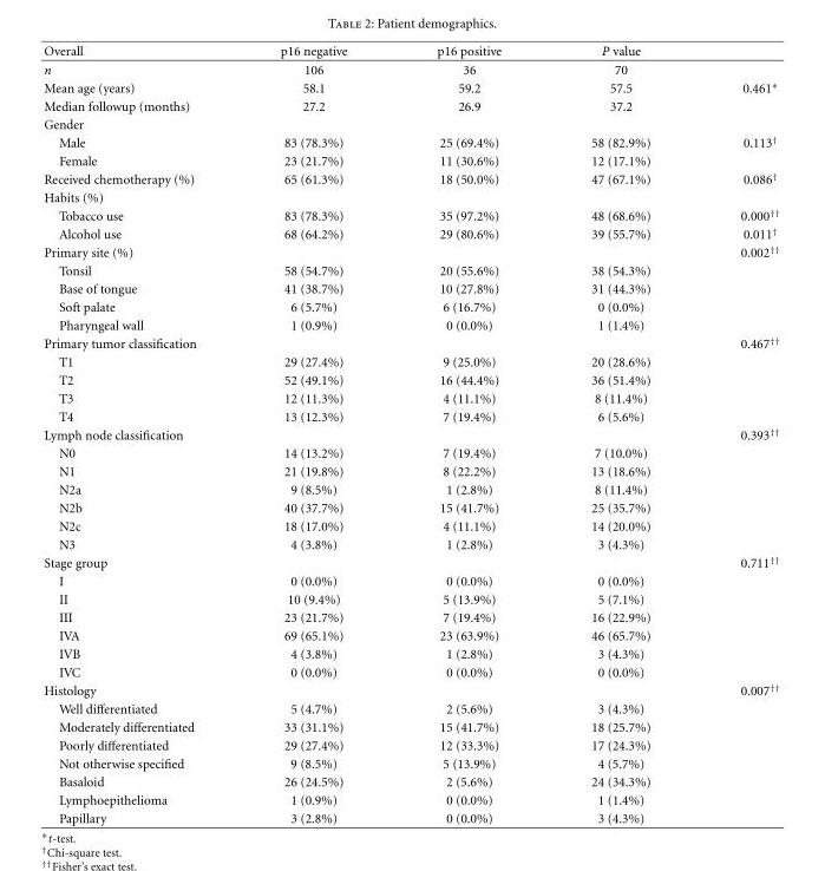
<table><thead><tr><td>Overall</td><td>p16 negative</td><td>p16 positive</td><td>P value</td><td></td></tr></thead><tbody><tr><td>n</td><td>106</td><td>36</td><td>70</td><td></td></tr><tr><td>Mean age (years)</td><td>58.1</td><td>59.2</td><td>57.5</td><td>0.461∗</td></tr><tr><td>Median followup (months)</td><td>27.2</td><td>26.9</td><td>37.2</td><td></td></tr><tr><td colspan="5">Gender</td></tr><tr><td>Male</td><td>83 (78.3%)</td><td>25 (69.4%)</td><td>58 (82.9%)</td><td>0.113<sup>†</sup></td></tr><tr><td>Female</td><td>23 (21.7%)</td><td>11 (30.6%)</td><td>12 (17.1%)</td><td></td></tr><tr><td>Received chemotherapy (%)</td><td>65 (61.3%)</td><td>18 (50.0%)</td><td>47 (67.1%)</td><td>0.086<sup>†</sup></td></tr><tr><td colspan="5">Habits (%)</td></tr><tr><td>Tobacco use</td><td>83 (78.3%)</td><td>35 (97.2%)</td><td>48 (68.6%)</td><td>0.000<sup>††</sup></td></tr><tr><td>Alcohol use</td><td>68 (64.2%)</td><td>29 (80.6%)</td><td>39 (55.7%)</td><td>0.011<sup>†</sup></td></tr><tr><td>Primary site (%)</td><td></td><td></td><td></td><td>0.002<sup>††</sup></td></tr><tr><td>Tonsil</td><td>58 (54.7%)</td><td>20 (55.6%)</td><td>38 (54.3%)</td><td></td></tr><tr><td>Base of tongue</td><td>41 (38.7%)</td><td>10 (27.8%)</td><td>31 (44.3%)</td><td></td></tr><tr><td>Soft palate</td><td>6 (5.7%)</td><td>6 (16.7%)</td><td>0 (0.0%)</td><td></td></tr><tr><td>Pharyngeal wall</td><td>1 (0.9%)</td><td>0 (0.0%)</td><td>1 (1.4%)</td><td></td></tr><tr><td>Primary tumor classification</td><td></td><td></td><td></td><td>0.467<sup>††</sup></td></tr><tr><td>T1</td><td>29 (27.4%)</td><td>9 (25.0%)</td><td>20 (28.6%)</td><td></td></tr><tr><td>T2</td><td>52 (49.1%)</td><td>16 (44.4%)</td><td>36 (51.4%)</td><td></td></tr><tr><td>T3</td><td>12 (11.3%)</td><td>4 (11.1%)</td><td>8 (11.4%)</td><td></td></tr><tr><td>T4</td><td>13 (12.3%)</td><td>7 (19.4%)</td><td>6 (5.6%)</td><td></td></tr><tr><td>Lymph node classification</td><td></td><td></td><td></td><td>0.393<sup>††</sup></td></tr><tr><td>N0</td><td>14 (13.2%)</td><td>7 (19.4%)</td><td>7 (10.0%)</td><td></td></tr><tr><td>N1</td><td>21 (19.8%)</td><td>8 (22.2%)</td><td>13 (18.6%)</td><td></td></tr><tr><td>N2a</td><td>9 (8.5%)</td><td>1 (2.8%)</td><td>8 (11.4%)</td><td></td></tr><tr><td>N2b</td><td>40 (37.7%)</td><td>15 (41.7%)</td><td>25 (35.7%)</td><td></td></tr><tr><td>N2c</td><td>18 (17.0%)</td><td>4 (11.1%)</td><td>14 (20.0%)</td><td></td></tr><tr><td>N3</td><td>4 (3.8%)</td><td>1 (2.8%)</td><td>3 (4.3%)</td><td></td></tr><tr><td>Stage group</td><td></td><td></td><td></td><td>0.711<sup>††</sup></td></tr><tr><td>I</td><td>0 (0.0%)</td><td>0 (0.0%)</td><td>0 (0.0%)</td><td></td></tr><tr><td>II</td><td>10 (9.4%)</td><td>5 (13.9%)</td><td>5 (7.1%)</td><td></td></tr><tr><td>III</td><td>23 (21.7%)</td><td>7 (19.4%)</td><td>16 (22.9%)</td><td></td></tr><tr><td>IVA</td><td>69 (65.1%)</td><td>23 (63.9%)</td><td>46 (65.7%)</td><td></td></tr><tr><td>IVB</td><td>4 (3.8%)</td><td>1 (2.8%)</td><td>3 (4.3%)</td><td></td></tr><tr><td>IVC</td><td>0 (0.0%)</td><td>0 (0.0%)</td><td>0 (0.0%)</td><td></td></tr><tr><td>Histology</td><td></td><td></td><td></td><td>0.007<sup>††</sup></td></tr><tr><td>Well differentiated</td><td>5 (4.7%)</td><td>2 (5.6%)</td><td>3 (4.3%)</td><td></td></tr><tr><td>Moderately differentiated</td><td>33 (31.1%)</td><td>15 (41.7%)</td><td>18 (25.7%)</td><td></td></tr><tr><td>Poorly differentiated</td><td>29 (27.4%)</td><td>12 (33.3%)</td><td>17 (24.3%)</td><td></td></tr><tr><td>Not otherwise specified</td><td>9 (8.5%)</td><td>5 (13.9%)</td><td>4 (5.7%)</td><td></td></tr><tr><td>Basaloid</td><td>26 (24.5%)</td><td>2 (5.6%)</td><td>24 (34.3%)</td><td></td></tr><tr><td>Lymphoepithelioma</td><td>1 (0.9%)</td><td>0 (0.0%)</td><td>1 (1.4%)</td><td></td></tr><tr><td>Papillary</td><td>3 (2.8%)</td><td>0 (0.0%)</td><td>3 (4.3%)</td><td></td></tr></tbody></table>